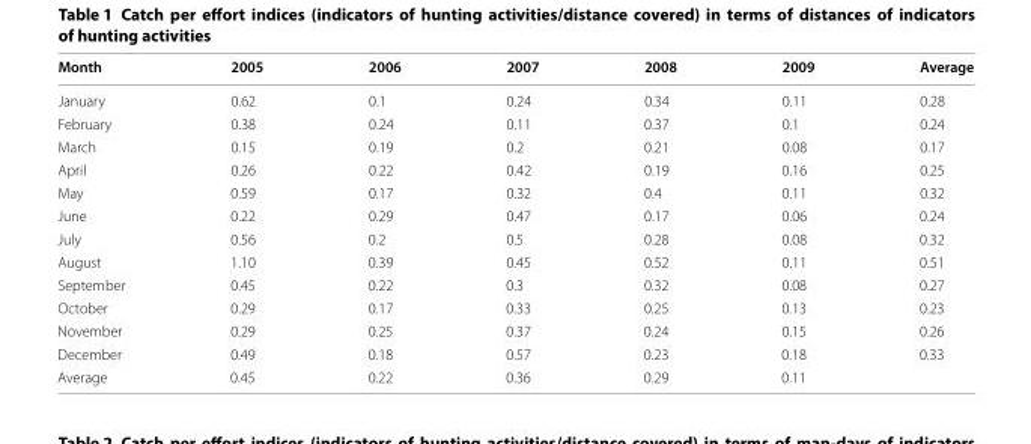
<table><thead><tr><td>Month</td><td>2005</td><td>2006</td><td>2007</td><td>2008</td><td>2009</td><td>Average</td></tr></thead><tbody><tr><td>January</td><td>0.62</td><td>0.1</td><td>0.24</td><td>0.34</td><td>0.11</td><td>0.28</td></tr><tr><td>February</td><td>0.38</td><td>0.24</td><td>0.11</td><td>0.37</td><td>0.1</td><td>0.24</td></tr><tr><td>March</td><td>0.15</td><td>0.19</td><td>0.2</td><td>0.21</td><td>0.08</td><td>0.17</td></tr><tr><td>April</td><td>0.26</td><td>0.22</td><td>0.42</td><td>0.19</td><td>0.16</td><td>0.25</td></tr><tr><td>May</td><td>0.59</td><td>0.17</td><td>0.32</td><td>0.4</td><td>0.11</td><td>0.32</td></tr><tr><td>June</td><td>0.22</td><td>0.29</td><td>0.47</td><td>0.17</td><td>0.06</td><td>0.24</td></tr><tr><td>July</td><td>0.56</td><td>0.2</td><td>0.5</td><td>0.28</td><td>0.08</td><td>0.32</td></tr><tr><td>August</td><td>1.10</td><td>0.39</td><td>0.45</td><td>0.52</td><td>0.11</td><td>0.51</td></tr><tr><td>September</td><td>0.45</td><td>0.22</td><td>0.3</td><td>0.32</td><td>0.08</td><td>0.27</td></tr><tr><td>October</td><td>0.29</td><td>0.17</td><td>0.33</td><td>0.25</td><td>0.13</td><td>0.23</td></tr><tr><td>November</td><td>0.29</td><td>0.25</td><td>0.37</td><td>0.24</td><td>0.15</td><td>0.26</td></tr><tr><td>December</td><td>0.49</td><td>0.18</td><td>0.57</td><td>0.23</td><td>0.18</td><td>0.33</td></tr><tr><td>Average</td><td>0.45</td><td>0.22</td><td>0.36</td><td>0.29</td><td>0.11</td><td></td></tr></tbody></table>